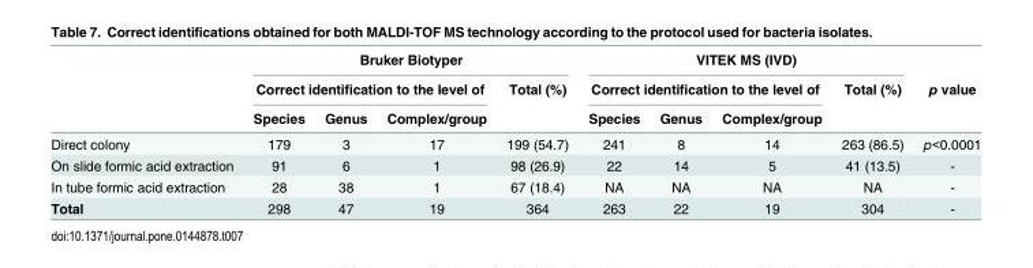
<table><thead><tr><td rowspan="3"></td><td colspan="4">Bruker Biotyper</td><td colspan="4">VITEK MS (IVD)</td><td rowspan="3">p value</td></tr><tr><td colspan="3">Correct identification to the level of</td><td rowspan="2">Total (%)</td><td colspan="3">Correct identification to the level of</td><td rowspan="2">Total (%)</td></tr><tr><td>Species</td><td>Genus</td><td>Complex/group</td><td>Species</td><td>Genus</td><td>Complex/group</td></tr></thead><tbody><tr><td>Direct colony</td><td>179</td><td>3</td><td>17</td><td>199 (54.7)</td><td>241</td><td>8</td><td>14</td><td>263 (86.5)</td><td>p&lt;0.0001</td></tr><tr><td>On slide formic acid extraction</td><td>91</td><td>6</td><td>1</td><td>98 (26.9)</td><td>22</td><td>14</td><td>5</td><td>41 (13.5)</td><td>-</td></tr><tr><td>In tube formic acid extraction</td><td>28</td><td>38</td><td>1</td><td>67 (18.4)</td><td>NA</td><td>NA</td><td>NA</td><td>NA</td><td>-</td></tr><tr><td>Total</td><td>298</td><td>47</td><td>19</td><td>364</td><td>263</td><td>22</td><td>19</td><td>304</td><td>-</td></tr></tbody></table>